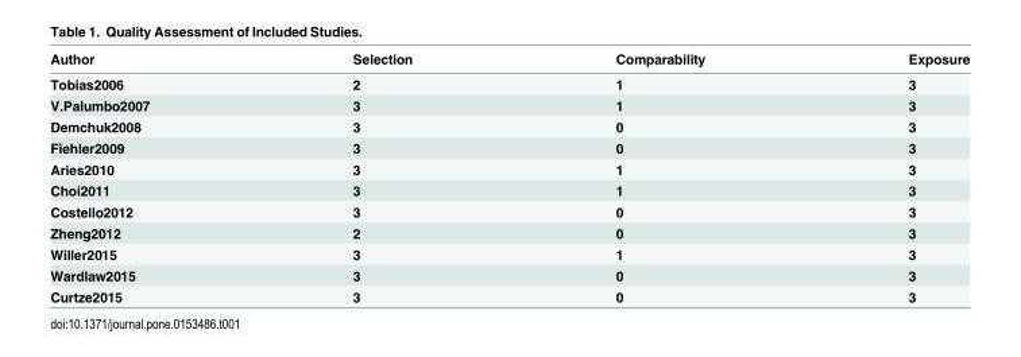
<table><thead><tr><td>Author</td><td>Selection</td><td>Comparability</td><td>Exposure</td></tr></thead><tbody><tr><td>Tobias2006</td><td>2</td><td>1</td><td>3</td></tr><tr><td>V.Palumbo2007</td><td>3</td><td>1</td><td>3</td></tr><tr><td>Demchuk2008</td><td>3</td><td>0</td><td>3</td></tr><tr><td>Fiehler2009</td><td>3</td><td>0</td><td>3</td></tr><tr><td>Aries2010</td><td>3</td><td>1</td><td>3</td></tr><tr><td>Choi2011</td><td>3</td><td>1</td><td>3</td></tr><tr><td>Costello2012</td><td>3</td><td>0</td><td>3</td></tr><tr><td>Zheng2012</td><td>2</td><td>0</td><td>3</td></tr><tr><td>Willer2015</td><td>3</td><td>1</td><td>3</td></tr><tr><td>Wardlaw2015</td><td>3</td><td>0</td><td>3</td></tr><tr><td>Curtze2015</td><td>3</td><td>0</td><td>3</td></tr></tbody></table>